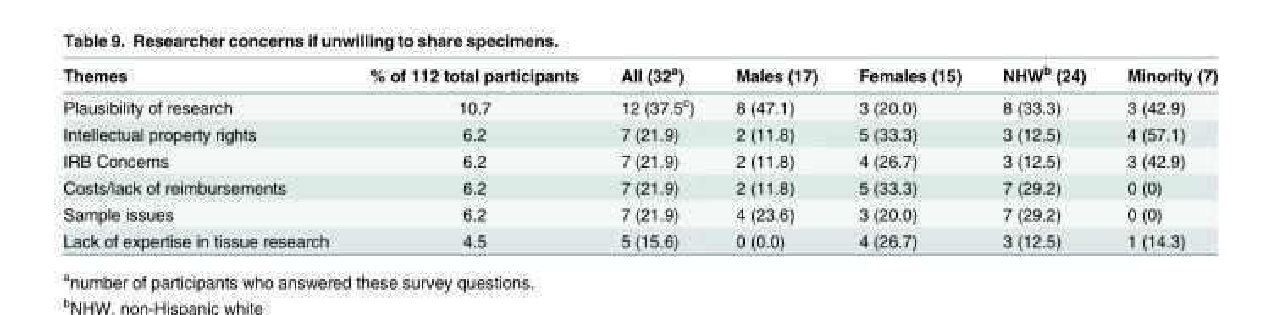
<table><thead><tr><td>Themes</td><td>% of 112 total participants</td><td>All (32<sup>a</sup>)</td><td>Males (17)</td><td>Females (15)</td><td>NHW<sup>b</sup> (24)</td><td>Minority (7)</td></tr></thead><tbody><tr><td>Plausibility of research</td><td>10.7</td><td>12 (37.5<sup>c</sup>)</td><td>8 (47.1)</td><td>3 (20.0)</td><td>8 (33.3)</td><td>3 (42.9)</td></tr><tr><td>Intellectual property rights</td><td>6.2</td><td>7 (21.9)</td><td>2 (11.8)</td><td>5 (33.3)</td><td>3 (12.5)</td><td>4 (57.1)</td></tr><tr><td>IRB Concerns</td><td>6.2</td><td>7 (21.9)</td><td>2 (11.8)</td><td>4 (26.7)</td><td>3 (12.5)</td><td>3 (42.9)</td></tr><tr><td>Costs/lack of reimbursements</td><td>6.2</td><td>7 (21.9)</td><td>2 (11.8)</td><td>5 (33.3)</td><td>7 (29.2)</td><td>0 (0)</td></tr><tr><td>Sample issues</td><td>6.2</td><td>7 (21.9)</td><td>4 (23.6)</td><td>3 (20.0)</td><td>7 (29.2)</td><td>0 (0)</td></tr><tr><td>Lack of expertise in tissue research</td><td>4.5</td><td>5 (15.6)</td><td>0 (0.0)</td><td>4 (26.7)</td><td>3 (12.5)</td><td>1 (14.3)</td></tr></tbody></table>